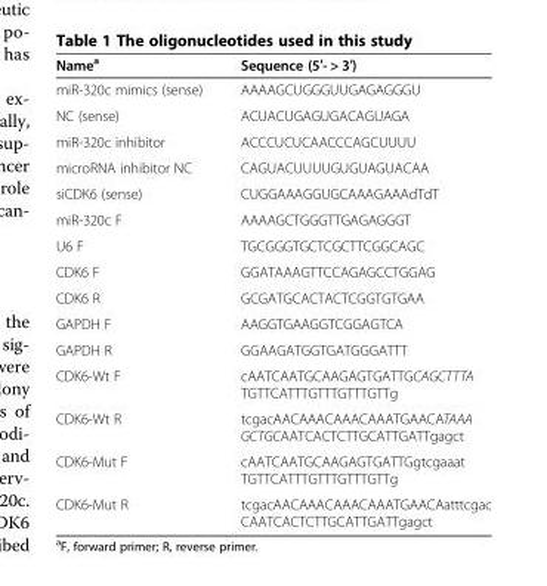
<table><thead><tr><td>Name<sup>a</sup></td><td>Sequence (5′- &gt; 3′)</td></tr></thead><tbody><tr><td>miR-320c mimics (sense)</td><td>AAAAGCUGGGUUGAGAGGGU</td></tr><tr><td>NC (sense)</td><td>ACUACUGAGUGACAGUAGA</td></tr><tr><td>miR-320c inhibitor</td><td>ACCCUCUCAACCCAGCUUUU</td></tr><tr><td>microRNA inhibitor NC</td><td>CAGUACUUUUGUGUAGUACAA</td></tr><tr><td>siCDK6 (sense)</td><td>CUGGAAAGGUGCAAAGAAAdTdT</td></tr><tr><td>miR-320c F</td><td>AAAAGCTGGGTTGAGAGGGT</td></tr><tr><td>U6 F</td><td>TGCGGGTGCTCGCTTCGGCAGC</td></tr><tr><td>CDK6 F</td><td>GGATAAAGTTCCAGAGCCTGGAG</td></tr><tr><td>CDK6 R</td><td>GCGATGCACTACTCGGTGTGAA</td></tr><tr><td>GAPDH F</td><td>AAGGTGAAGGTCGGAGTCA</td></tr><tr><td>GAPDH R</td><td>GGAAGATGGTGATGGGATTT</td></tr><tr><td>CDK6-Wt F</td><td>cAATCAATGCAAGAGTGATTGCAGCTTTA TGTTCATTTGTTTGTTTGTTg</td></tr><tr><td>CDK6-Wt R</td><td>tcgacAACAAACAAACAAATGAACATAAA GCTGCAATCACTCTTGCATTGATTgagct</td></tr><tr><td>CDK6-Mut F</td><td>cAATCAATGCAAGAGTGATTGgtcgaaat TGTTCATTTGTTTGTTTGTTg</td></tr><tr><td>CDK6-Mut R</td><td>tcgacAACAAACAAACAAATGAACAatttcgac CAATCACTCTTGCATTGATTgagct</td></tr></tbody></table>